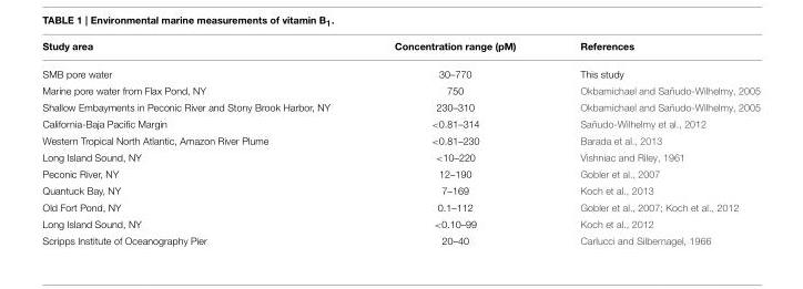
<table><thead><tr><td>Study area</td><td>Concentration range (pM)</td><td>References</td></tr></thead><tbody><tr><td>SMB pore water</td><td>30–770</td><td>This study</td></tr><tr><td>Marine pore water from Flax Pond, NY</td><td>750</td><td>Okbamichael and Sañudo-Wilhelmy, 2005</td></tr><tr><td>Shallow Embayments in Peconic River and Stony Brook Harbor, NY</td><td>230–310</td><td>Okbamichael and Sañudo-Wilhelmy, 2005</td></tr><tr><td>California-Baja Pacific Margin</td><td>&lt;0.81–314</td><td>Sañudo-Wilhelmy et al., 2012</td></tr><tr><td>Western Tropical North Atlantic, Amazon River Plume</td><td>&lt;0.81–230</td><td>Barada et al., 2013</td></tr><tr><td>Long Island Sound, NY</td><td>&lt;10–220</td><td>Vishniac and Riley, 1961</td></tr><tr><td>Peconic River, NY</td><td>12–190</td><td>Gobler et al., 2007</td></tr><tr><td>Quantuck Bay, NY</td><td>7–169</td><td>Koch et al., 2013</td></tr><tr><td>Old Fort Pond, NY</td><td>0.1–112</td><td>Gobler et al., 2007; Koch et al., 2012</td></tr><tr><td>Long Island Sound, NY</td><td>&lt;0.10–99</td><td>Koch et al., 2012</td></tr><tr><td>Scripps Institute of Oceanography Pier</td><td>20–40</td><td>Carlucci and Silbernagel, 1966</td></tr></tbody></table>